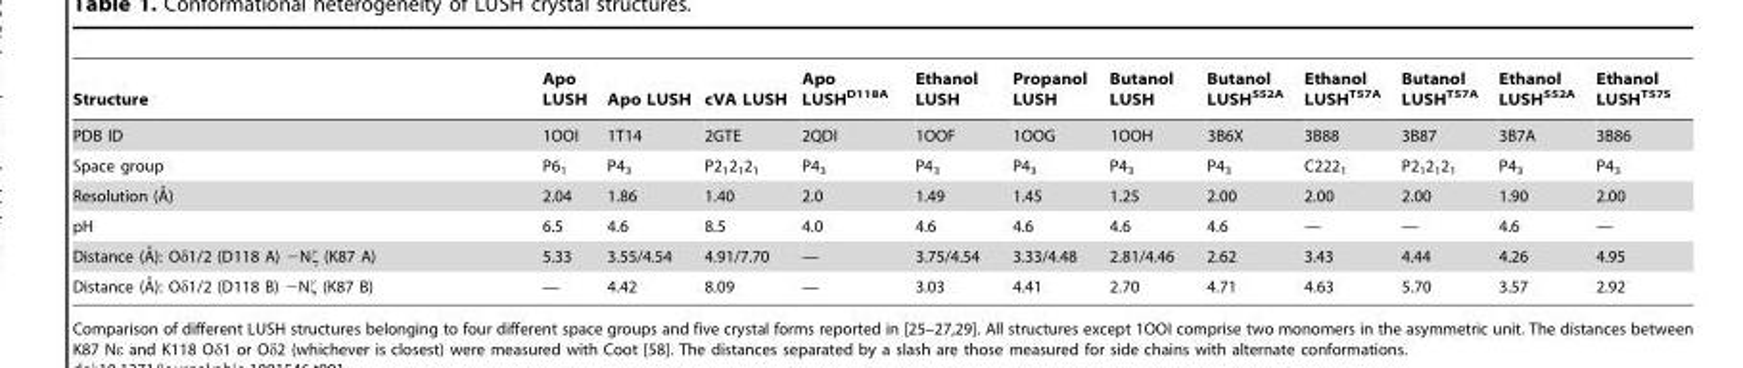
<table><thead><tr><td>Structure</td><td>Apo LUSH</td><td>Apo LUSH</td><td>cVA LUSH</td><td>Apo LUSH<sup>D118A</sup></td><td>Ethanol LUSH</td><td>Propanol LUSH</td><td>Butanol LUSH</td><td>Butanol LUSH<sup>S52A</sup></td><td>Ethanol LUSH<sup>T57A</sup></td><td>Butanol LUSH<sup>T57A</sup></td><td>Ethanol LUSH<sup>S52A</sup></td><td>Ethanol LUSH<sup>T57S</sup></td></tr></thead><tbody><tr><td>PDB ID</td><td>1OOI</td><td>1T14</td><td>2GTE</td><td>2QDI</td><td>1OOF</td><td>1OOG</td><td>1OOH</td><td>3B6X</td><td>3B88</td><td>3B87</td><td>3B7A</td><td>3B86</td></tr><tr><td>Space group</td><td>P6<sub>1</sub></td><td>P4<sub>3</sub></td><td>P2<sub>1</sub>2<sub>1</sub>2<sub>1</sub></td><td>P4<sub>3</sub></td><td>P4<sub>3</sub></td><td>P4<sub>3</sub></td><td>P4<sub>3</sub></td><td>P4<sub>3</sub></td><td>C222<sub>1</sub></td><td>P2<sub>1</sub>2<sub>1</sub>2<sub>1</sub></td><td>P4<sub>3</sub></td><td>P4<sub>3</sub></td></tr><tr><td>Resolution (A˚)</td><td>2.04</td><td>1.86</td><td>1.40</td><td>2.0</td><td>1.49</td><td>1.45</td><td>1.25</td><td>2.00</td><td>2.00</td><td>2.00</td><td>1.90</td><td>2.00</td></tr><tr><td>pH</td><td>6.5</td><td>4.6</td><td>8.5</td><td>4.0</td><td>4.6</td><td>4.6</td><td>4.6</td><td>4.6</td><td>—</td><td>—</td><td>4.6</td><td>—</td></tr><tr><td>Distance (A˚): Od1/2 (D118 A) 2Nf (K87 A)</td><td>5.33</td><td>3.55/4.54</td><td>4.91/7.70</td><td>—</td><td>3.75/4.54</td><td>3.33/4.48</td><td>2.81/4.46</td><td>2.62</td><td>3.43</td><td>4.44</td><td>4.26</td><td>4.95</td></tr><tr><td>Distance (A˚): Od1/2 (D118 B) 2Nf (K87 B)</td><td>—</td><td>4.42</td><td>8.09</td><td>—</td><td>3.03</td><td>4.41</td><td>2.70</td><td>4.71</td><td>4.63</td><td>5.70</td><td>3.57</td><td>2.92</td></tr></tbody></table>